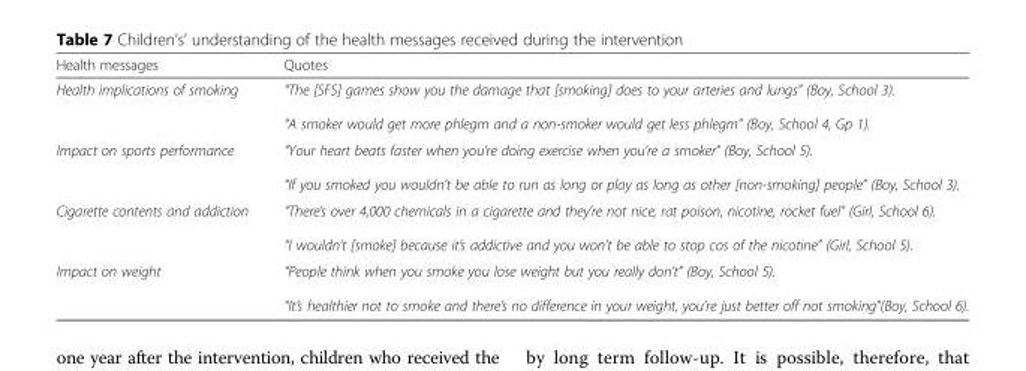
<table><thead><tr><td>Health messages</td><td>Quotes</td></tr></thead><tbody><tr><td>Health implications of smoking</td><td>“The [SFS] games show you the damage that [smoking] does to your arteries and lungs” (Boy, School 3). “A smoker would get more phlegm and a non-smoker would get less phlegm” (Boy, School 4, Gp 1).</td></tr><tr><td>Impact on sports performance</td><td>“Your heart beats faster when you’re doing exercise when you’re a smoker” (Boy, School 5). “If you smoked you wouldn’t be able to run as long or play as long as other [non-smoking] people” (Boy, School 3).</td></tr><tr><td>Cigarette contents and addiction</td><td>“There’s over 4,000 chemicals in a cigarette and they’re not nice, rat poison, nicotine, rocket fuel” (Girl, School 6). “I wouldn’t [smoke] because it’s addictive and you won’t be able to stop cos of the nicotine” (Girl, School 5).</td></tr><tr><td>Impact on weight</td><td>“People think when you smoke you lose weight but you really don’t” (Boy, School 5). “It’s healthier not to smoke and there’s no difference in your weight, you’re just better off not smoking”(Boy, School 6).</td></tr></tbody></table>